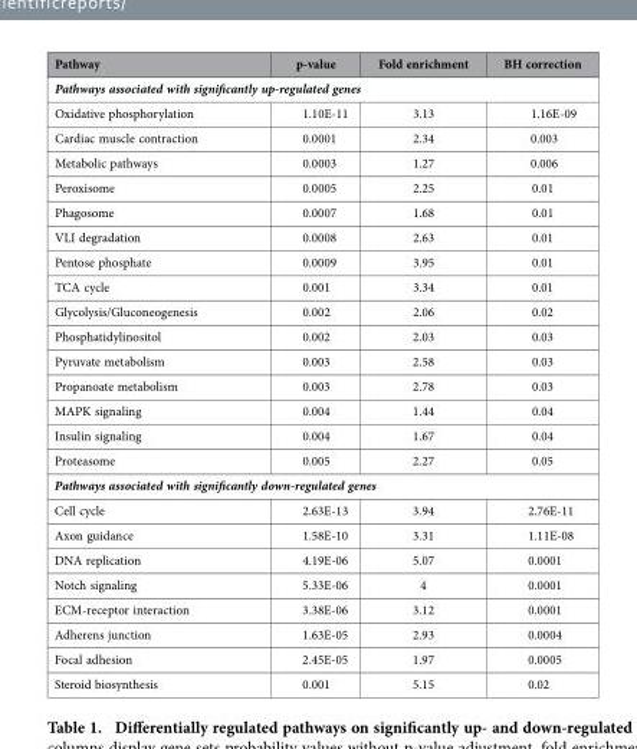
<table><thead><tr><td>Pathway</td><td>p-value</td><td>Fold enrichment</td><td>BH correction</td></tr></thead><tbody><tr><td colspan="4">Pathways associated with significantly up-regulated genes</td></tr><tr><td>Oxidative phosphorylation</td><td>1.10E-11</td><td>3.13</td><td>1.16E-09</td></tr><tr><td>Cardiac muscle contraction</td><td>0.0001</td><td>2.34</td><td>0.003</td></tr><tr><td>Metabolic pathways</td><td>0.0003</td><td>1.27</td><td>0.006</td></tr><tr><td>Peroxisome</td><td>0.0005</td><td>2.25</td><td>0.01</td></tr><tr><td>Phagosome</td><td>0.0007</td><td>1.68</td><td>0.01</td></tr><tr><td>VLI degradation</td><td>0.0008</td><td>2.63</td><td>0.01</td></tr><tr><td>Pentose phosphate</td><td>0.0009</td><td>3.95</td><td>0.01</td></tr><tr><td>TCA cycle</td><td>0.001</td><td>3.34</td><td>0.01</td></tr><tr><td>Glycolysis/Gluconeogenesis</td><td>0.002</td><td>2.06</td><td>0.02</td></tr><tr><td>Phosphatidylinositol</td><td>0.002</td><td>2.03</td><td>0.03</td></tr><tr><td>Pyruvate metabolism</td><td>0.003</td><td>2.58</td><td>0.03</td></tr><tr><td>Propanoate metabolism</td><td>0.003</td><td>2.78</td><td>0.03</td></tr><tr><td>MAPK signaling</td><td>0.004</td><td>1.44</td><td>0.04</td></tr><tr><td>Insulin signaling</td><td>0.004</td><td>1.67</td><td>0.04</td></tr><tr><td>Proteasome</td><td>0.005</td><td>2.27</td><td>0.05</td></tr><tr><td colspan="4">Pathways associated with significantly down-regulated genes</td></tr><tr><td>Cell cycle</td><td>2.63E-13</td><td>3.94</td><td>2.76E-11</td></tr><tr><td>Axon guidance</td><td>1.58E-10</td><td>3.31</td><td>1.11E-08</td></tr><tr><td>DNA replication</td><td>4.19E-06</td><td>5.07</td><td>0.0001</td></tr><tr><td>Notch signaling</td><td>5.33E-06</td><td>4</td><td>0.0001</td></tr><tr><td>ECM-receptor interaction</td><td>3.38E-06</td><td>3.12</td><td>0.0001</td></tr><tr><td>Adherens junction</td><td>1.63E-05</td><td>2.93</td><td>0.0004</td></tr><tr><td>Focal adhesion</td><td>2.45E-05</td><td>1.97</td><td>0.0005</td></tr><tr><td>Steroid biosynthesis</td><td>0.001</td><td>5.15</td><td>0.02</td></tr></tbody></table>